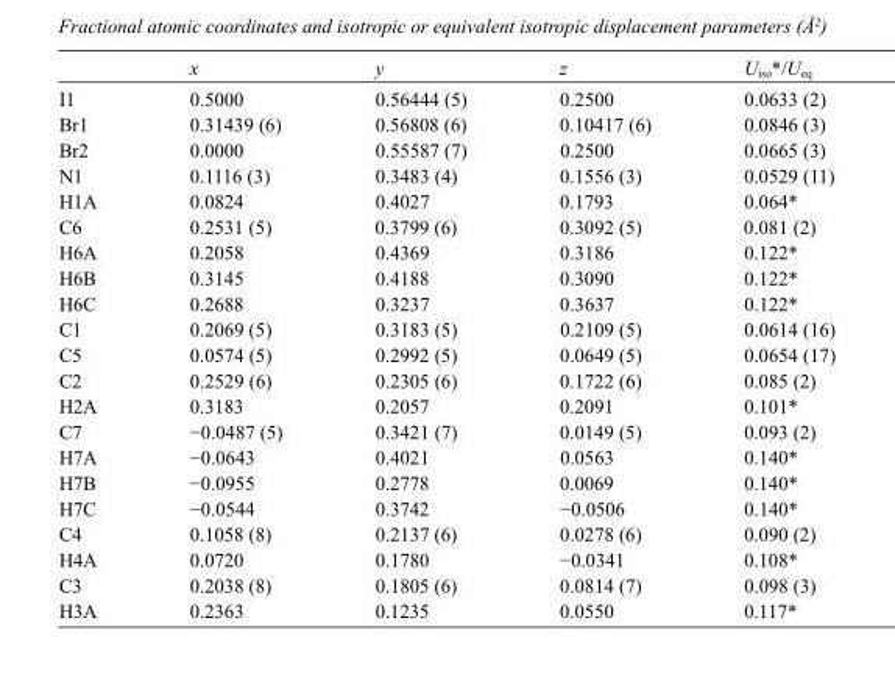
<table><thead><tr><td></td><td>x</td><td>y</td><td>z</td><td>U<sub>iso</sub>*/U<sub>eq</sub></td></tr></thead><tbody><tr><td>I1</td><td>0.5000</td><td>0.56444 (5)</td><td>0.2500</td><td>0.0633 (2)</td></tr><tr><td>Br1</td><td>0.31439 (6)</td><td>0.56808 (6)</td><td>0.10417 (6)</td><td>0.0846 (3)</td></tr><tr><td>Br2</td><td>0.0000</td><td>0.55587 (7)</td><td>0.2500</td><td>0.0665 (3)</td></tr><tr><td>N1</td><td>0.1116 (3)</td><td>0.3483 (4)</td><td>0.1556 (3)</td><td>0.0529 (11)</td></tr><tr><td>H1A</td><td>0.0824</td><td>0.4027</td><td>0.1793</td><td>0.064*</td></tr><tr><td>C6</td><td>0.2531 (5)</td><td>0.3799 (6)</td><td>0.3092 (5)</td><td>0.081 (2)</td></tr><tr><td>H6A</td><td>0.2058</td><td>0.4369</td><td>0.3186</td><td>0.122*</td></tr><tr><td>H6B</td><td>0.3145</td><td>0.4188</td><td>0.3090</td><td>0.122*</td></tr><tr><td>H6C</td><td>0.2688</td><td>0.3237</td><td>0.3637</td><td>0.122*</td></tr><tr><td>C1</td><td>0.2069 (5)</td><td>0.3183 (5)</td><td>0.2109 (5)</td><td>0.0614 (16)</td></tr><tr><td>C5</td><td>0.0574 (5)</td><td>0.2992 (5)</td><td>0.0649 (5)</td><td>0.0654 (17)</td></tr><tr><td>C2</td><td>0.2529 (6)</td><td>0.2305 (6)</td><td>0.1722 (6)</td><td>0.085 (2)</td></tr><tr><td>H2A</td><td>0.3183</td><td>0.2057</td><td>0.2091</td><td>0.101*</td></tr><tr><td>C7</td><td>−0.0487 (5)</td><td>0.3421 (7)</td><td>0.0149 (5)</td><td>0.093 (2)</td></tr><tr><td>H7A</td><td>−0.0643</td><td>0.4021</td><td>0.0563</td><td>0.140*</td></tr><tr><td>H7B</td><td>−0.0955</td><td>0.2778</td><td>0.0069</td><td>0.140*</td></tr><tr><td>H7C</td><td>−0.0544</td><td>0.3742</td><td>−0.0506</td><td>0.140*</td></tr><tr><td>C4</td><td>0.1058 (8)</td><td>0.2137 (6)</td><td>0.0278 (6)</td><td>0.090 (2)</td></tr><tr><td>H4A</td><td>0.0720</td><td>0.1780</td><td>−0.0341</td><td>0.108*</td></tr><tr><td>C3</td><td>0.2038 (8)</td><td>0.1805 (6)</td><td>0.0814 (7)</td><td>0.098 (3)</td></tr><tr><td>H3A</td><td>0.2363</td><td>0.1235</td><td>0.0550</td><td>0.117*</td></tr></tbody></table>